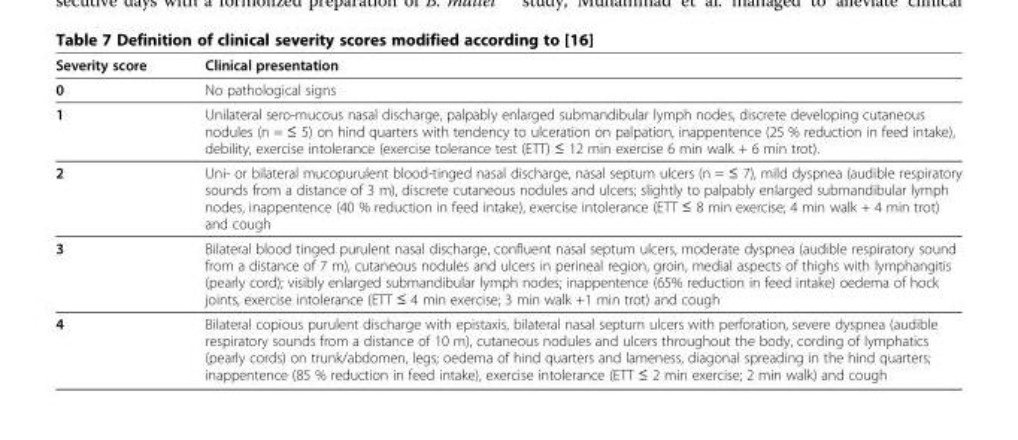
<table><thead><tr><td>Severity score</td><td>Clinical presentation</td></tr></thead><tbody><tr><td>0</td><td>No pathological signs</td></tr><tr><td>1</td><td>Unilateral sero-mucous nasal discharge, palpably enlarged submandibular lymph nodes, discrete developing cutaneous nodules (n = ≤ 5) on hind quarters with tendency to ulceration on palpation, inappentence (25 % reduction in feed intake), debility, exercise intolerance (exercise tolerance test (ETT) ≤ 12 min exercise 6 min walk + 6 min trot).</td></tr><tr><td>2</td><td>Uni- or bilateral mucopurulent blood-tinged nasal discharge, nasal septum ulcers (n = ≤ 7), mild dyspnea (audible respiratory sounds from a distance of 3 m), discrete cutaneous nodules and ulcers; slightly to palpably enlarged submandibular lymph nodes, inappentence (40 % reduction in feed intake), exercise intolerance (ETT ≤ 8 min exercise; 4 min walk + 4 min trot) and cough</td></tr><tr><td>3</td><td>Bilateral blood tinged purulent nasal discharge, confluent nasal septum ulcers, moderate dyspnea (audible respiratory sound from a distance of 7 m), cutaneous nodules and ulcers in perineal region, groin, medial aspects of thighs with lymphangitis (pearly cord); visibly enlarged submandibular lymph nodes; inappentence (65% reduction in feed intake) oedema of hock joints, exercise intolerance (ETT ≤ 4 min exercise; 3 min walk +1 min trot) and cough</td></tr><tr><td>4</td><td>Bilateral copious purulent discharge with epistaxis, bilateral nasal septum ulcers with perforation, severe dyspnea (audible respiratory sounds from a distance of 10 m), cutaneous nodules and ulcers throughout the body, cording of lymphatics (pearly cords) on trunk/abdomen, legs; oedema of hind quarters and lameness, diagonal spreading in the hind quarters; inappentence (85 % reduction in feed intake), exercise intolerance (ETT ≤ 2 min exercise; 2 min walk) and cough</td></tr></tbody></table>